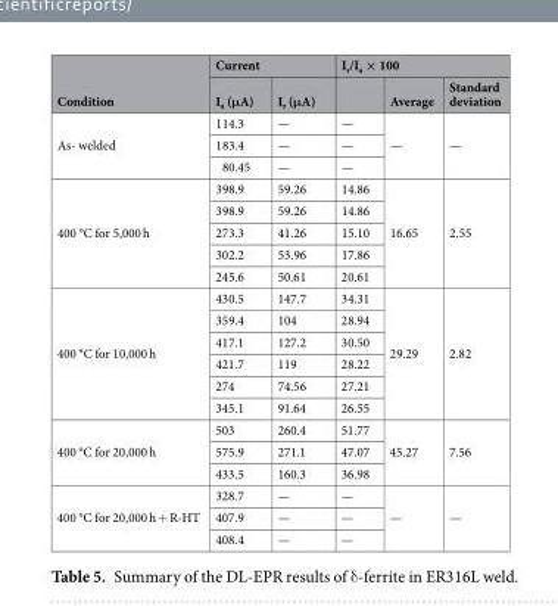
<table><thead><tr><td rowspan="2">Condition</td><td colspan="2">Current</td><td colspan="3">I<sub>r</sub>/I<sub>a</sub> × 100</td></tr><tr><td>I<sub>a</sub> (μA)</td><td>I<sub>r</sub> (μA)</td><td></td><td>Average</td><td>Standard deviation</td></tr></thead><tbody><tr><td rowspan="3">As- welded</td><td>114.3</td><td>—</td><td>—</td><td rowspan="3">—</td><td rowspan="3">—</td></tr><tr><td>183.4</td><td>—</td><td>—</td></tr><tr><td>80.45</td><td>—</td><td>—</td></tr><tr><td rowspan="5">400 °C for 5,000 h</td><td>398.9</td><td>59.26</td><td>14.86</td><td rowspan="5">16.65</td><td rowspan="5">2.55</td></tr><tr><td>398.9</td><td>59.26</td><td>14.86</td></tr><tr><td>273.3</td><td>41.26</td><td>15.10</td></tr><tr><td>302.2</td><td>53.96</td><td>17.86</td></tr><tr><td>245.6</td><td>50.61</td><td>20.61</td></tr><tr><td rowspan="6">400 °C for 10,000 h</td><td>430.5</td><td>147.7</td><td>34.31</td><td rowspan="6">29.29</td><td rowspan="6">2.82</td></tr><tr><td>359.4</td><td>104</td><td>28.94</td></tr><tr><td>417.1</td><td>127.2</td><td>30.50</td></tr><tr><td>421.7</td><td>119</td><td>28.22</td></tr><tr><td>274</td><td>74.56</td><td>27.21</td></tr><tr><td>345.1</td><td>91.64</td><td>26.55</td></tr><tr><td rowspan="3">400 °C for 20,000 h</td><td>503</td><td>260.4</td><td>51.77</td><td rowspan="3">45.27</td><td rowspan="3">7.56</td></tr><tr><td>575.9</td><td>271.1</td><td>47.07</td></tr><tr><td>433.5</td><td>160.3</td><td>36.98</td></tr><tr><td rowspan="3">400 °C for 20,000 h + R-HT</td><td>328.7</td><td>—</td><td>—</td><td rowspan="3">—</td><td rowspan="3">—</td></tr><tr><td>407.9</td><td>—</td><td>—</td></tr><tr><td>408.4</td><td>—</td><td>—</td></tr></tbody></table>